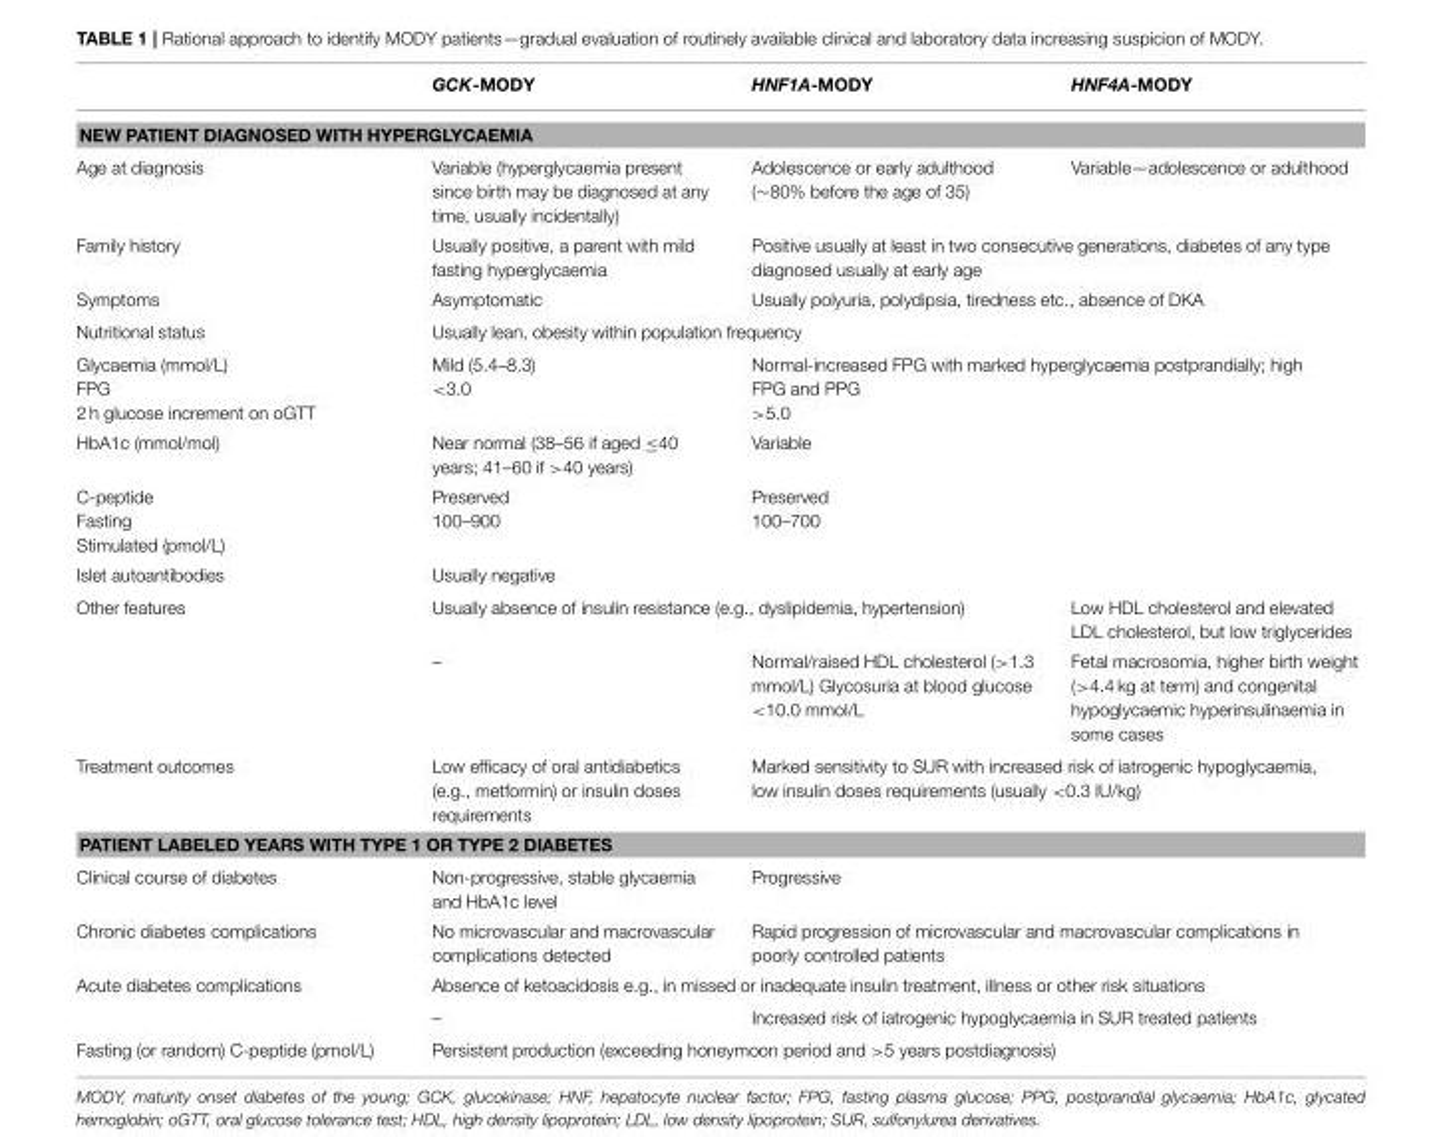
<table><thead><tr><td></td><td>GCK-MODY</td><td>HNF1A-MODY</td><td>HNF4A-MODY</td></tr></thead><tbody><tr><td colspan="4">NEW PATIENT DIAGNOSED WITH HYPERGLYCAEMIA</td></tr><tr><td>Age at diagnosis</td><td>Variable (hyperglycaemia present since birth may be diagnosed at any time, usually incidentally)</td><td>Adolescence or early adulthood (∼80% before the age of 35)</td><td>Variable—adolescence or adulthood</td></tr><tr><td>Family history</td><td>Usually positive, a parent with mild fasting hyperglycaemia</td><td colspan="2">Positive usually at least in two consecutive generations, diabetes of any type diagnosed usually at early age</td></tr><tr><td>Symptoms</td><td>Asymptomatic</td><td colspan="2">Usually polyuria, polydipsia, tiredness etc., absence of DKA</td></tr><tr><td>Nutritional status</td><td colspan="3">Usually lean, obesity within population frequency</td></tr><tr><td>Glycaemia (mmol/L) FPG 2 h glucose increment on oGTT</td><td>Mild (5.4–8.3) &lt;3.0</td><td colspan="2">Normal-increased FPG with marked hyperglycaemia postprandially; high FPG and PPG &gt;5.0</td></tr><tr><td>HbA1c (mmol/mol)</td><td>Near normal (38–56 if aged ≤40 years; 41–60 if &gt;40 years)</td><td colspan="2">Variable</td></tr><tr><td>C-peptide Fasting Stimulated (pmol/L)</td><td>Preserved 100–900</td><td>Preserved 100–700</td><td></td></tr><tr><td>Islet autoantibodies</td><td colspan="3">Usually negative</td></tr><tr><td rowspan="2">Other features</td><td colspan="2">Usually absence of insulin resistance (e.g., dyslipidemia, hypertension)</td><td>Low HDL cholesterol and elevated LDL cholesterol, but low triglycerides</td></tr><tr><td>–</td><td>Normal/raised HDL cholesterol (&gt;1.3 mmol/L) Glycosuria at blood glucose &lt;10.0 mmol/L</td><td>Fetal macrosomia, higher birth weight (&gt;4.4 kg at term) and congenital hypoglycaemic hyperinsulinaemia in some cases</td></tr><tr><td>Treatment outcomes</td><td>Low efficacy of oral antidiabetics (e.g., metformin) or insulin doses requirements</td><td colspan="2">Marked sensitivity to SUR with increased risk of iatrogenic hypoglycaemia, low insulin doses requirements (usually &lt;0.3 IU/kg)</td></tr><tr><td colspan="4">PATIENT LABELED YEARS WITH TYPE 1 OR TYPE 2 DIABETES</td></tr><tr><td>Clinical course of diabetes</td><td>Non-progressive, stable glycaemia and HbA1c level</td><td colspan="2">Progressive</td></tr><tr><td>Chronic diabetes complications</td><td>No microvascular and macrovascular complications detected</td><td colspan="2">Rapid progression of microvascular and macrovascular complications in poorly controlled patients</td></tr><tr><td rowspan="2">Acute diabetes complications</td><td colspan="3">Absence of ketoacidosis e.g., in missed or inadequate insulin treatment, illness or other risk situations</td></tr><tr><td>–</td><td colspan="2">Increased risk of iatrogenic hypoglycaemia in SUR treated patients</td></tr><tr><td>Fasting (or random) C-peptide (pmol/L)</td><td colspan="3">Persistent production (exceeding honeymoon period and &gt;5 years postdiagnosis)</td></tr></tbody></table>